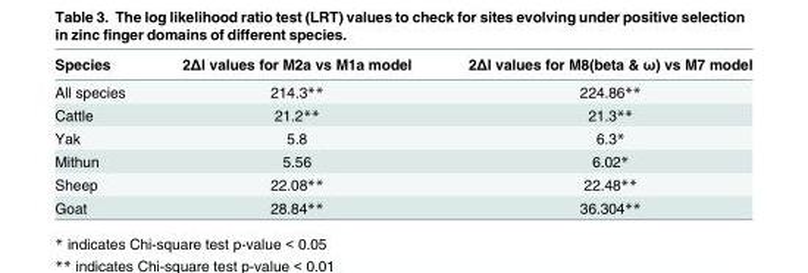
<table><thead><tr><td>Species</td><td>2Δl values for M2a vs M1a model</td><td>2Δl values for M8(beta &amp; ω) vs M7 model</td></tr></thead><tbody><tr><td>All species</td><td>214.3**</td><td>224.86**</td></tr><tr><td>Cattle</td><td>21.2**</td><td>21.3**</td></tr><tr><td>Yak</td><td>5.8</td><td>6.3*</td></tr><tr><td>Mithun</td><td>5.56</td><td>6.02*</td></tr><tr><td>Sheep</td><td>22.08**</td><td>22.48**</td></tr><tr><td>Goat</td><td>28.84**</td><td>36.304**</td></tr></tbody></table>